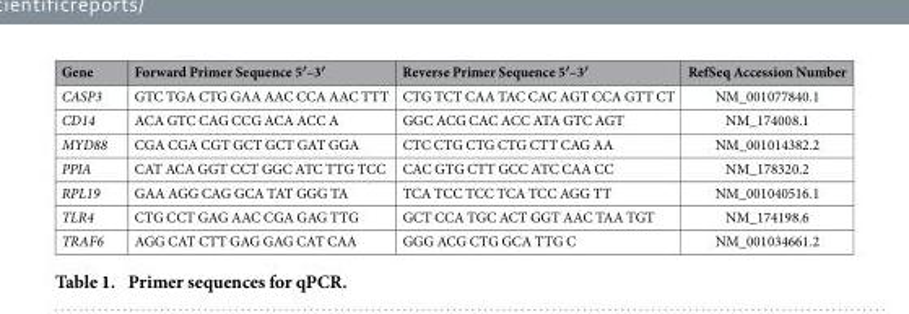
<table><thead><tr><td>Gene</td><td>Forward Primer Sequence 5′–3′</td><td>Reverse Primer Sequence 5′–3′</td><td>RefSeq Accession Number</td></tr></thead><tbody><tr><td>CASP3</td><td>GTC TGA CTG GAA AAC CCA AAC TTT</td><td>CTG TCT CAA TAC CAC AGT CCA GTT CT</td><td>NM_001077840.1</td></tr><tr><td>CD14</td><td>ACA GTC CAG CCG ACA ACC A</td><td>GGC ACG CAC ACC ATA GTC AGT</td><td>NM_174008.1</td></tr><tr><td>MYD88</td><td>CGA CGA CGT GCT GCT GAT GGA</td><td>CTC CTG CTG CTG CTT CAG AA</td><td>NM_001014382.2</td></tr><tr><td>PPIA</td><td>CAT ACA GGT CCT GGC ATC TTG TCC</td><td>CAC GTG CTT GCC ATC CAA CC</td><td>NM_178320.2</td></tr><tr><td>RPL19</td><td>GAA AGG CAG GCA TAT GGG TA</td><td>TCA TCC TCC TCA TCC AGG TT</td><td>NM_001040516.1</td></tr><tr><td>TLR4</td><td>CTG CCT GAG AAC CGA GAG TTG</td><td>GCT CCA TGC ACT GGT AAC TAA TGT</td><td>NM_174198.6</td></tr><tr><td>TRAF6</td><td>AGG CAT CTT GAG GAG CAT CAA</td><td>GGG ACG CTG GCA TTG C</td><td>NM_001034661.2</td></tr></tbody></table>